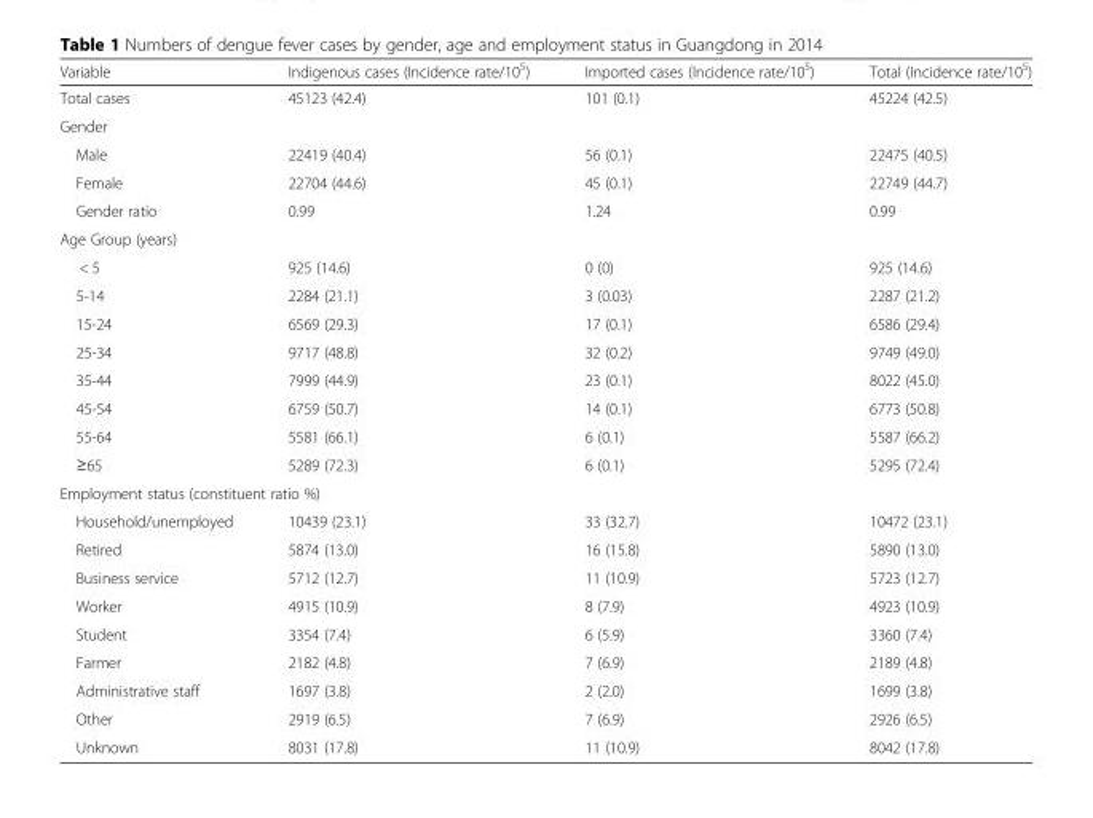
<table><thead><tr><td>Variable</td><td>Indigenous cases (Incidence rate/10<sup>5</sup>)</td><td>Imported cases (Incidence rate/10<sup>5</sup>)</td><td>Total (Incidence rate/10<sup>5</sup>)</td></tr></thead><tbody><tr><td>Total cases</td><td>45123 (42.4)</td><td>101 (0.1)</td><td>45224 (42.5)</td></tr><tr><td colspan="4">Gender</td></tr><tr><td>Male</td><td>22419 (40.4)</td><td>56 (0.1)</td><td>22475 (40.5)</td></tr><tr><td>Female</td><td>22704 (44.6)</td><td>45 (0.1)</td><td>22749 (44.7)</td></tr><tr><td>Gender ratio</td><td>0.99</td><td>1.24</td><td>0.99</td></tr><tr><td colspan="4">Age Group (years)</td></tr><tr><td>&lt; 5</td><td>925 (14.6)</td><td>0 (0)</td><td>925 (14.6)</td></tr><tr><td>5-14</td><td>2284 (21.1)</td><td>3 (0.03)</td><td>2287 (21.2)</td></tr><tr><td>15-24</td><td>6569 (29.3)</td><td>17 (0.1)</td><td>6586 (29.4)</td></tr><tr><td>25-34</td><td>9717 (48.8)</td><td>32 (0.2)</td><td>9749 (49.0)</td></tr><tr><td>35-44</td><td>7999 (44.9)</td><td>23 (0.1)</td><td>8022 (45.0)</td></tr><tr><td>45-54</td><td>6759 (50.7)</td><td>14 (0.1)</td><td>6773 (50.8)</td></tr><tr><td>55-64</td><td>5581 (66.1)</td><td>6 (0.1)</td><td>5587 (66.2)</td></tr><tr><td>≥65</td><td>5289 (72.3)</td><td>6 (0.1)</td><td>5295 (72.4)</td></tr><tr><td colspan="4">Employment status (constituent ratio %)</td></tr><tr><td>Household/unemployed</td><td>10439 (23.1)</td><td>33 (32.7)</td><td>10472 (23.1)</td></tr><tr><td>Retired</td><td>5874 (13.0)</td><td>16 (15.8)</td><td>5890 (13.0)</td></tr><tr><td>Business service</td><td>5712 (12.7)</td><td>11 (10.9)</td><td>5723 (12.7)</td></tr><tr><td>Worker</td><td>4915 (10.9)</td><td>8 (7.9)</td><td>4923 (10.9)</td></tr><tr><td>Student</td><td>3354 (7.4)</td><td>6 (5.9)</td><td>3360 (7.4)</td></tr><tr><td>Farmer</td><td>2182 (4.8)</td><td>7 (6.9)</td><td>2189 (4.8)</td></tr><tr><td>Administrative staff</td><td>1697 (3.8)</td><td>2 (2.0)</td><td>1699 (3.8)</td></tr><tr><td>Other</td><td>2919 (6.5)</td><td>7 (6.9)</td><td>2926 (6.5)</td></tr><tr><td>Unknown</td><td>8031 (17.8)</td><td>11 (10.9)</td><td>8042 (17.8)</td></tr></tbody></table>